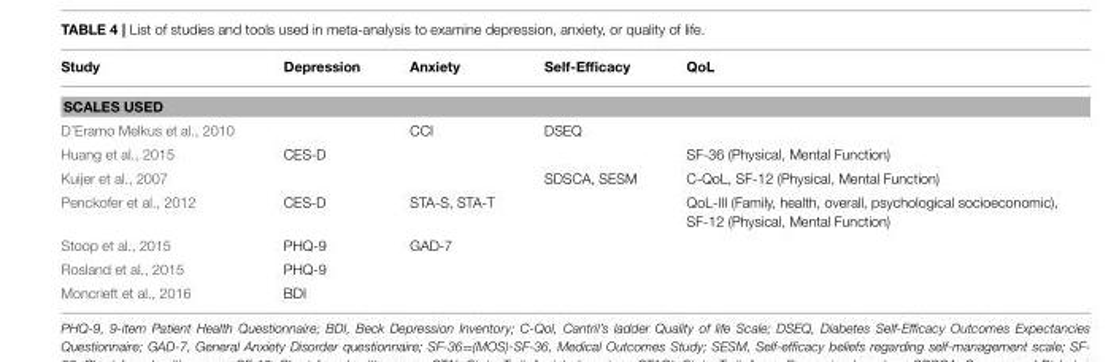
<table><thead><tr><td>Study</td><td>Depression</td><td>Anxiety</td><td>Self-Efficacy</td><td>QoL</td></tr></thead><tbody><tr><td colspan="5">SCALES USED</td></tr><tr><td>D’Eramo Melkus et al., 2010</td><td></td><td>CCI</td><td>DSEQ</td><td></td></tr><tr><td>Huang et al., 2015</td><td>CES-D</td><td></td><td></td><td>SF-36 (Physical, Mental Function)</td></tr><tr><td>Kuijer et al., 2007</td><td></td><td></td><td>SDSCA, SESM</td><td>C-QoL, SF-12 (Physical, Mental Function)</td></tr><tr><td>Penckofer et al., 2012</td><td>CES-D</td><td>STA-S, STA-T</td><td></td><td>QoL-III (Family, health, overall, psychological socioeconomic), SF-12 (Physical, Mental Function)</td></tr><tr><td>Stoop et al., 2015</td><td>PHQ-9</td><td>GAD-7</td><td></td><td></td></tr><tr><td>Rosland et al., 2015</td><td>PHQ-9</td><td></td><td></td><td></td></tr><tr><td>Moncrieft et al., 2016</td><td>BDI</td><td></td><td></td><td></td></tr></tbody></table>